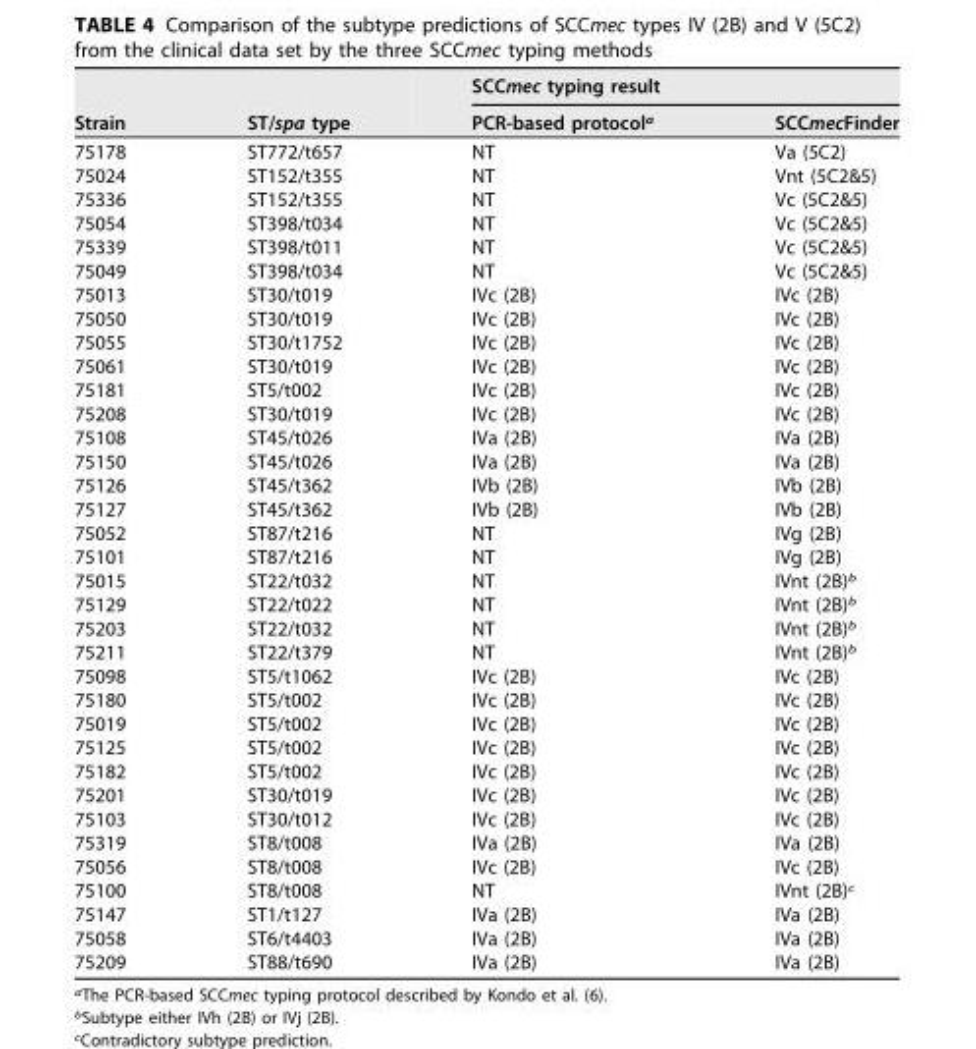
<table><thead><tr><td rowspan="2">Strain</td><td rowspan="2">ST/spa type</td><td colspan="2">SCCmec typing result</td></tr><tr><td>PCR-based protocol<sup>a</sup></td><td>SCCmecFinder</td></tr></thead><tbody><tr><td>75178</td><td>ST772/t657</td><td>NT</td><td>Va (5C2)</td></tr><tr><td>75024</td><td>ST152/t355</td><td>NT</td><td>Vnt (5C2&amp;5)</td></tr><tr><td>75336</td><td>ST152/t355</td><td>NT</td><td>Vc (5C2&amp;5)</td></tr><tr><td>75054</td><td>ST398/t034</td><td>NT</td><td>Vc (5C2&amp;5)</td></tr><tr><td>75339</td><td>ST398/t011</td><td>NT</td><td>Vc (5C2&amp;5)</td></tr><tr><td>75049</td><td>ST398/t034</td><td>NT</td><td>Vc (5C2&amp;5)</td></tr><tr><td>75013</td><td>ST30/t019</td><td>IVc (2B)</td><td>IVc (2B)</td></tr><tr><td>75050</td><td>ST30/t019</td><td>IVc (2B)</td><td>IVc (2B)</td></tr><tr><td>75055</td><td>ST30/t1752</td><td>IVc (2B)</td><td>IVc (2B)</td></tr><tr><td>75061</td><td>ST30/t019</td><td>IVc (2B)</td><td>IVc (2B)</td></tr><tr><td>75181</td><td>ST5/t002</td><td>IVc (2B)</td><td>IVc (2B)</td></tr><tr><td>75208</td><td>ST30/t019</td><td>IVc (2B)</td><td>IVc (2B)</td></tr><tr><td>75108</td><td>ST45/t026</td><td>IVa (2B)</td><td>IVa (2B)</td></tr><tr><td>75150</td><td>ST45/t026</td><td>IVa (2B)</td><td>IVa (2B)</td></tr><tr><td>75126</td><td>ST45/t362</td><td>IVb (2B)</td><td>IVb (2B)</td></tr><tr><td>75127</td><td>ST45/t362</td><td>IVb (2B)</td><td>IVb (2B)</td></tr><tr><td>75052</td><td>ST87/t216</td><td>NT</td><td>IVg (2B)</td></tr><tr><td>75101</td><td>ST87/t216</td><td>NT</td><td>IVg (2B)</td></tr><tr><td>75015</td><td>ST22/t032</td><td>NT</td><td>IVnt (2B)<sup>b</sup></td></tr><tr><td>75129</td><td>ST22/t022</td><td>NT</td><td>IVnt (2B)<sup>b</sup></td></tr><tr><td>75203</td><td>ST22/t032</td><td>NT</td><td>IVnt (2B)<sup>b</sup></td></tr><tr><td>75211</td><td>ST22/t379</td><td>NT</td><td>IVnt (2B)<sup>b</sup></td></tr><tr><td>75098</td><td>ST5/t1062</td><td>IVc (2B)</td><td>IVc (2B)</td></tr><tr><td>75180</td><td>ST5/t002</td><td>IVc (2B)</td><td>IVc (2B)</td></tr><tr><td>75019</td><td>ST5/t002</td><td>IVc (2B)</td><td>IVc (2B)</td></tr><tr><td>75125</td><td>ST5/t002</td><td>IVc (2B)</td><td>IVc (2B)</td></tr><tr><td>75182</td><td>ST5/t002</td><td>IVc (2B)</td><td>IVc (2B)</td></tr><tr><td>75201</td><td>ST30/t019</td><td>IVc (2B)</td><td>IVc (2B)</td></tr><tr><td>75103</td><td>ST30/t012</td><td>IVc (2B)</td><td>IVc (2B)</td></tr><tr><td>75319</td><td>ST8/t008</td><td>IVa (2B)</td><td>IVa (2B)</td></tr><tr><td>75056</td><td>ST8/t008</td><td>IVc (2B)</td><td>IVc (2B)</td></tr><tr><td>75100</td><td>ST8/t008</td><td>NT</td><td>IVnt (2B)<sup>c</sup></td></tr><tr><td>75147</td><td>ST1/t127</td><td>IVa (2B)</td><td>IVa (2B)</td></tr><tr><td>75058</td><td>ST6/t4403</td><td>IVa (2B)</td><td>IVa (2B)</td></tr><tr><td>75209</td><td>ST88/t690</td><td>IVa (2B)</td><td>IVa (2B)</td></tr></tbody></table>